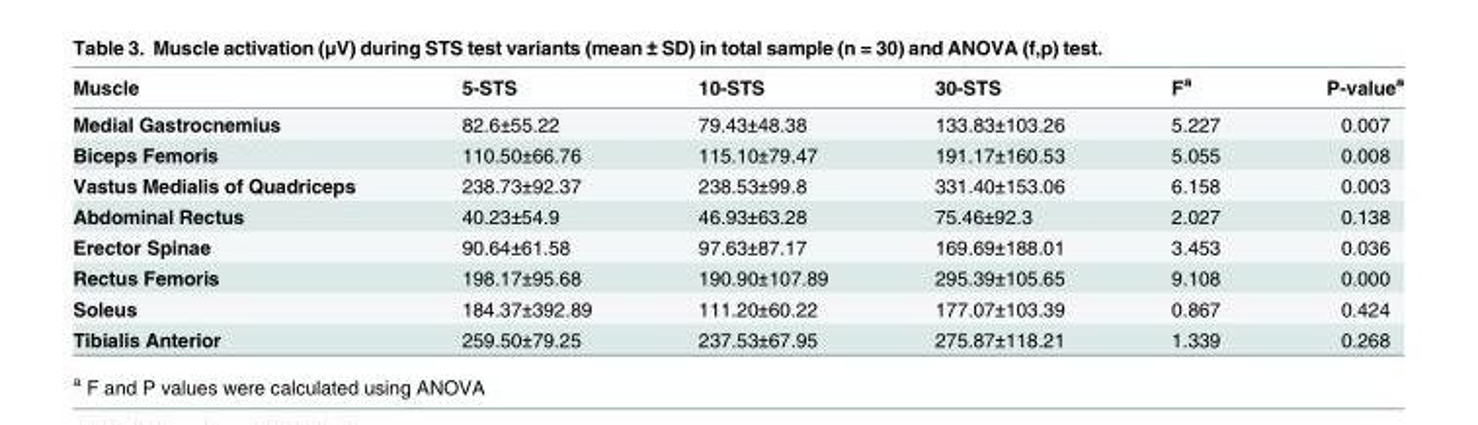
<table><thead><tr><td>Muscle</td><td>5-STS</td><td>10-STS</td><td>30-STS</td><td>F<sup>a</sup></td><td>P-value<sup>a</sup></td></tr></thead><tbody><tr><td>Medial Gastrocnemius</td><td>82.6±55.22</td><td>79.43±48.38</td><td>133.83±103.26</td><td>5.227</td><td>0.007</td></tr><tr><td>Biceps Femoris</td><td>110.50±66.76</td><td>115.10±79.47</td><td>191.17±160.53</td><td>5.055</td><td>0.008</td></tr><tr><td>Vastus Medialis of Quadriceps</td><td>238.73±92.37</td><td>238.53±99.8</td><td>331.40±153.06</td><td>6.158</td><td>0.003</td></tr><tr><td>Abdominal Rectus</td><td>40.23±54.9</td><td>46.93±63.28</td><td>75.46±92.3</td><td>2.027</td><td>0.138</td></tr><tr><td>Erector Spinae</td><td>90.64±61.58</td><td>97.63±87.17</td><td>169.69±188.01</td><td>3.453</td><td>0.036</td></tr><tr><td>Rectus Femoris</td><td>198.17±95.68</td><td>190.90±107.89</td><td>295.39±105.65</td><td>9.108</td><td>0.000</td></tr><tr><td>Soleus</td><td>184.37±392.89</td><td>111.20±60.22</td><td>177.07±103.39</td><td>0.867</td><td>0.424</td></tr><tr><td>Tibialis Anterior</td><td>259.50±79.25</td><td>237.53±67.95</td><td>275.87±118.21</td><td>1.339</td><td>0.268</td></tr></tbody></table>